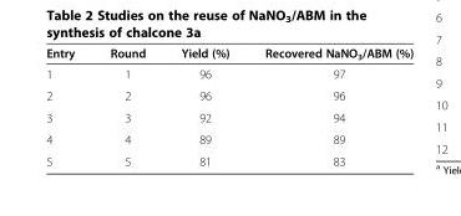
<table><thead><tr><td>Entry</td><td>Round</td><td>Yield (%)</td><td>Recovered NaNO<sub>3</sub>/ABM (%)</td></tr></thead><tbody><tr><td>1</td><td>1</td><td>96</td><td>97</td></tr><tr><td>2</td><td>2</td><td>96</td><td>96</td></tr><tr><td>3</td><td>3</td><td>92</td><td>94</td></tr><tr><td>4</td><td>4</td><td>89</td><td>89</td></tr><tr><td>5</td><td>5</td><td>81</td><td>83</td></tr></tbody></table>